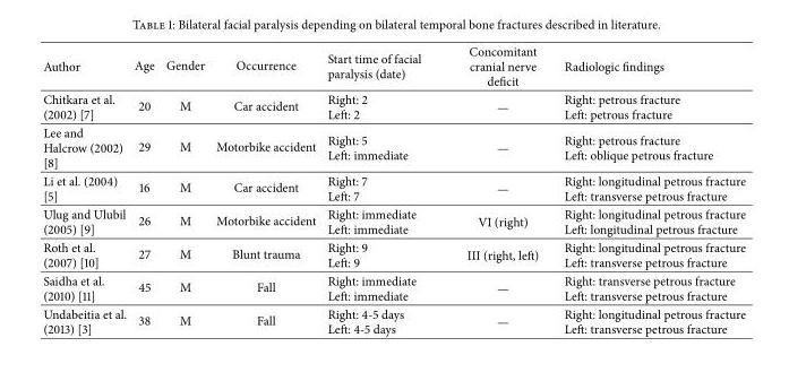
<table><thead><tr><td>Author</td><td>Age</td><td>Gender</td><td>Occurrence</td><td>Start time of facial paralysis (date)</td><td>Concomitant cranial nerve deficit</td><td>Radiologic findings</td></tr></thead><tbody><tr><td>Chitkara et al. (2002) [7]</td><td>20</td><td>M</td><td>Car accident</td><td>Right: 2 Left: 2</td><td>—</td><td>Right: petrous fracture Left: petrous fracture</td></tr><tr><td>Lee and Halcrow (2002) [8]</td><td>29</td><td>M</td><td>Motorbike accident</td><td>Right: 5 Left: immediate</td><td>—</td><td>Right: petrous fracture Left: oblique petrous fracture</td></tr><tr><td>Li et al. (2004) [5]</td><td>16</td><td>M</td><td>Car accident</td><td>Right: 7 Left: 7</td><td>—</td><td>Right: longitudinal petrous fracture Left: transverse petrous fracture</td></tr><tr><td>Ulug and Ulubil (2005) [9]</td><td>26</td><td>M</td><td>Motorbike accident</td><td>Right: immediate Left: immediate</td><td>VI (right)</td><td>Right: longitudinal petrous fracture Left: longitudinal petrous fracture</td></tr><tr><td>Roth et al. (2007) [10]</td><td>27</td><td>M</td><td>Blunt trauma</td><td>Right: 9 Left: 9</td><td>III (right, left)</td><td>Right: longitudinal petrous fracture Left: transverse petrous fracture</td></tr><tr><td>Saidha et al. (2010) [11]</td><td>45</td><td>M</td><td>Fall</td><td>Right: immediate Left: immediate</td><td>—</td><td>Right: transverse petrous fracture Left: transverse petrous fracture</td></tr><tr><td>Undabeitia et al. (2013) [3]</td><td>38</td><td>M</td><td>Fall</td><td>Right: 4-5 days Left: 4-5 days</td><td>—</td><td>Right: longitudinal petrous fracture Left: transverse petrous fracture</td></tr></tbody></table>